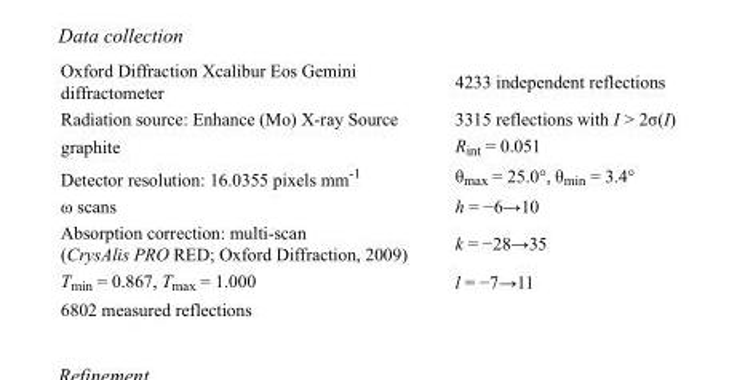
<table><tbody><tr><td>Oxford Diffraction Xcalibur Eos Gemini diffractometer</td><td>4233 independent reflections</td></tr><tr><td>Radiation source: Enhance (Mo) X-ray Source</td><td>3315 reflections with I &gt; 2σ(I)</td></tr><tr><td>graphite</td><td>R<sub>int</sub> = 0.051</td></tr><tr><td>Detector resolution: 16.0355 pixels mm<sup>-1</sup></td><td>θ<sub>max</sub> = 25.0°, θ<sub>min</sub> = 3.4°</td></tr><tr><td>ω scans</td><td>h = −6→10</td></tr><tr><td>Absorption correction: multi-scan (CrysAlis PRO RED; Oxford Diffraction, 2009)</td><td>k = −28→35</td></tr><tr><td>T<sub>min</sub> = 0.867, T<sub>max</sub> = 1.000</td><td>l = −7→11</td></tr><tr><td>6802 measured reflections</td><td></td></tr></tbody></table>